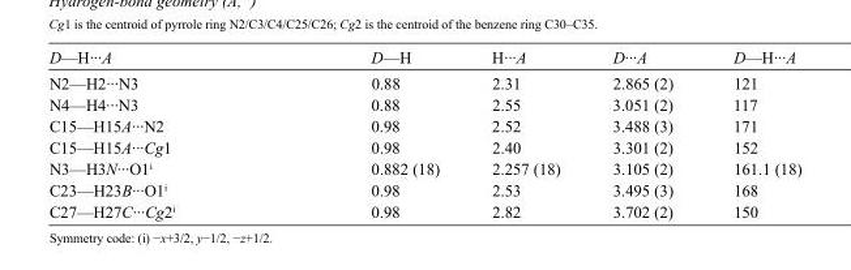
<table><tbody><tr><td>D—H···A</td><td>D—H</td><td>H···A</td><td>D···A</td><td>D—H···A</td></tr><tr><td>N2—H2···N3</td><td>0.88</td><td>2.31</td><td>2.865 (2)</td><td>121</td></tr><tr><td>N4—H4···N3</td><td>0.88</td><td>2.55</td><td>3.051 (2)</td><td>117</td></tr><tr><td>C15—H15A···N2</td><td>0.98</td><td>2.52</td><td>3.488 (3)</td><td>171</td></tr><tr><td>C15—H15A···Cg1</td><td>0.98</td><td>2.40</td><td>3.301 (2)</td><td>152</td></tr><tr><td>N3—H3N···O1<sup>i</sup></td><td>0.882 (18)</td><td>2.257 (18)</td><td>3.105 (2)</td><td>161.1 (18)</td></tr><tr><td>C23—H23B···O1<sup>i</sup></td><td>0.98</td><td>2.53</td><td>3.495 (3)</td><td>168</td></tr><tr><td>C27—H27C···Cg2<sup>i</sup></td><td>0.98</td><td>2.82</td><td>3.702 (2)</td><td>150</td></tr></tbody></table>